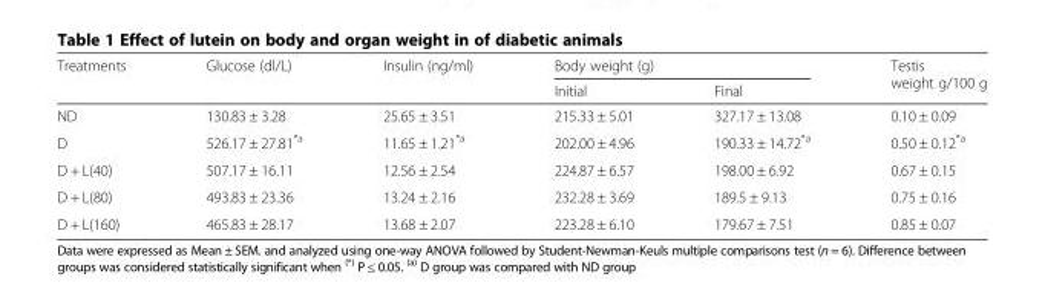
<table><thead><tr><td rowspan="2">Treatments</td><td rowspan="2">Glucose (dl/L)</td><td rowspan="2">Insulin (ng/ml)</td><td colspan="2">Body weight (g)</td><td rowspan="2">Testis weight g/100 g</td></tr><tr><td>Initial</td><td>Final</td></tr></thead><tbody><tr><td>ND</td><td>130.83 ± 3.28</td><td>25.65 ± 3.51</td><td>215.33 ± 5.01</td><td>327.17 ± 13.08</td><td>0.10 ± 0.09</td></tr><tr><td>D</td><td>526.17 ± 27.81<sup>*a</sup></td><td>11.65 ± 1.21<sup>*a</sup></td><td>202.00 ± 4.96</td><td>190.33 ± 14.72<sup>*a</sup></td><td>0.50 ± 0.12<sup>*a</sup></td></tr><tr><td>D + L(40)</td><td>507.17 ± 16.11</td><td>12.56 ± 2.54</td><td>224.87 ± 6.57</td><td>198.00 ± 6.92</td><td>0.67 ± 0.15</td></tr><tr><td>D + L(80)</td><td>493.83 ± 23.36</td><td>13.24 ± 2.16</td><td>232.28 ± 3.69</td><td>189.5 ± 9.13</td><td>0.75 ± 0.16</td></tr><tr><td>D + L(160)</td><td>465.83 ± 28.17</td><td>13.68 ± 2.07</td><td>223.28 ± 6.10</td><td>179.67 ± 7.51</td><td>0.85 ± 0.07</td></tr></tbody></table>